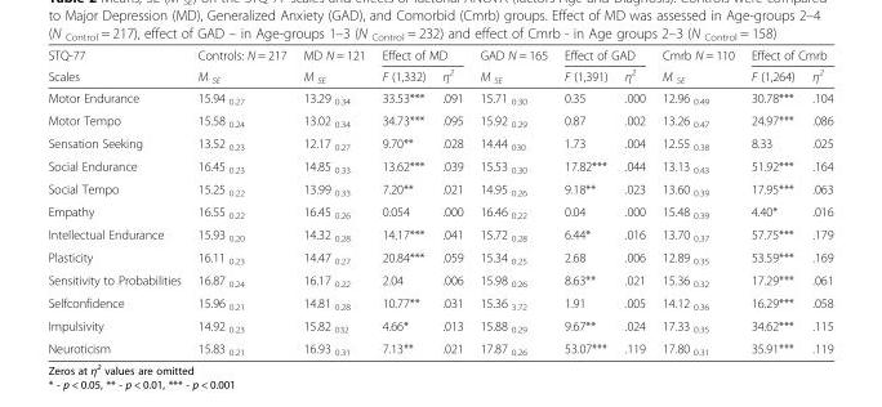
<table><thead><tr><td rowspan="2">STQ-77 Scales</td><td rowspan="2">Controls: N = 217 M <sub>SE</sub></td><td rowspan="2">MD N = 121 M <sub>SE</sub></td><td colspan="2">Effect of MD</td><td rowspan="2">GAD N = 165 M <sub>SE</sub></td><td colspan="2">Effect of GAD</td><td rowspan="2">Cmrb N = 110 M <sub>SE</sub></td><td colspan="2">Effect of Cmrb</td></tr><tr><td>F (1,332)</td><td>η<sup>2</sup></td><td>F (1,391)</td><td>η<sup>2</sup></td><td>F (1,264)</td><td>η<sup>2</sup></td></tr></thead><tbody><tr><td>Motor Endurance</td><td>15.94 <sub>0.27</sub></td><td>13.29 <sub>0.34</sub></td><td>33.53***</td><td>.091</td><td>15.71 <sub>0.30</sub></td><td>0.35</td><td>.000</td><td>12.96 <sub>0.49</sub></td><td>30.78***</td><td>.104</td></tr><tr><td>Motor Tempo</td><td>15.58 <sub>0.24</sub></td><td>13.02 <sub>0.34</sub></td><td>34.73***</td><td>.095</td><td>15.92 <sub>0.29</sub></td><td>0.87</td><td>.002</td><td>13.26 <sub>0.47</sub></td><td>24.97***</td><td>.086</td></tr><tr><td>Sensation Seeking</td><td>13.52 <sub>0.23</sub></td><td>12.17 <sub>0.27</sub></td><td>9.70**</td><td>.028</td><td>14.44 <sub>030</sub></td><td>1.73</td><td>.004</td><td>12.55 <sub>0.38</sub></td><td>8.33</td><td>.025</td></tr><tr><td>Social Endurance</td><td>16.45 <sub>0.23</sub></td><td>14.85 <sub>0.33</sub></td><td>13.62***</td><td>.039</td><td>15.53 <sub>0.30</sub></td><td>17.82***</td><td>.044</td><td>13.13 <sub>0.43</sub></td><td>51.92***</td><td>.164</td></tr><tr><td>Social Tempo</td><td>15.25 <sub>0.22</sub></td><td>13.99 <sub>0.33</sub></td><td>7.20**</td><td>.021</td><td>14.95 <sub>0.26</sub></td><td>9.18**</td><td>.023</td><td>13.60 <sub>0.39</sub></td><td>17.95***</td><td>.063</td></tr><tr><td>Empathy</td><td>16.55 <sub>0.22</sub></td><td>16.45 <sub>0.26</sub></td><td>0.054</td><td>.000</td><td>16.46 <sub>0.22</sub></td><td>0.04</td><td>.000</td><td>15.48 <sub>0.39</sub></td><td>4.40*</td><td>.016</td></tr><tr><td>Intellectual Endurance</td><td>15.93 <sub>0.20</sub></td><td>14.32 <sub>0.28</sub></td><td>14.17***</td><td>.041</td><td>15.72 <sub>0.28</sub></td><td>6.44*</td><td>.016</td><td>13.70 <sub>0.37</sub></td><td>57.75***</td><td>.179</td></tr><tr><td>Plasticity</td><td>16.11 <sub>0.23</sub></td><td>14.47 <sub>0.27</sub></td><td>20.84***</td><td>.059</td><td>15.34 <sub>0.25</sub></td><td>2.68</td><td>.006</td><td>12.89 <sub>0.35</sub></td><td>53.59***</td><td>.169</td></tr><tr><td>Sensitivity to Probabilities</td><td>16.87 <sub>0.24</sub></td><td>16.17 <sub>0.22</sub></td><td>2.04</td><td>.006</td><td>15.98 <sub>0.26</sub></td><td>8.63**</td><td>.021</td><td>15.36 <sub>0.32</sub></td><td>17.29***</td><td>.061</td></tr><tr><td>Selfconfidence</td><td>15.96 <sub>0.21</sub></td><td>14.81 <sub>0.28</sub></td><td>10.77**</td><td>.031</td><td>15.36 <sub>3.72</sub></td><td>1.91</td><td>.005</td><td>14.12 <sub>0.36</sub></td><td>16.29***</td><td>.058</td></tr><tr><td>Impulsivity</td><td>14.92 <sub>0.23</sub></td><td>15.82 <sub>032</sub></td><td>4.66*</td><td>.013</td><td>15.88 <sub>0.29</sub></td><td>9.67**</td><td>.024</td><td>17.33 <sub>0.35</sub></td><td>34.62***</td><td>.115</td></tr><tr><td>Neuroticism</td><td>15.83 <sub>0.21</sub></td><td>16.93 <sub>0.31</sub></td><td>7.13**</td><td>.021</td><td>17.87 <sub>0.26</sub></td><td>53.07***</td><td>.119</td><td>17.80 <sub>0.31</sub></td><td>35.91***</td><td>.119</td></tr></tbody></table>